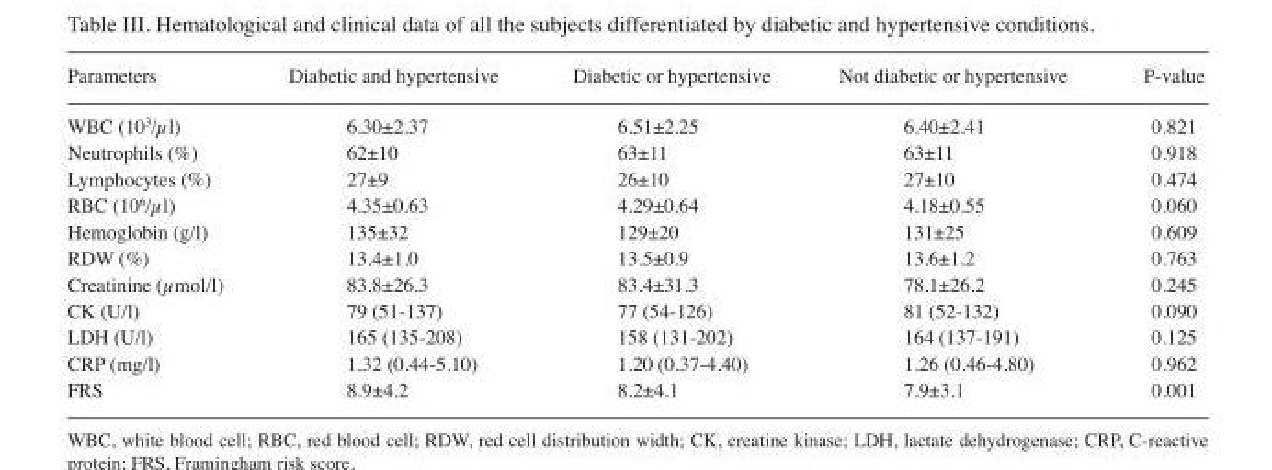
<table><thead><tr><td>Parameters</td><td>Diabetic and hypertensive</td><td>Diabetic or hypertensive</td><td>Not diabetic or hypertensive</td><td>P-value</td></tr></thead><tbody><tr><td>WBC (10<sup>3</sup>/µl)</td><td>6.30±2.37</td><td>6.51±2.25</td><td>6.40±2.41</td><td>0.821</td></tr><tr><td>Neutrophils (%)</td><td>62±10</td><td>63±11</td><td>63±11</td><td>0.918</td></tr><tr><td>Lymphocytes (%)</td><td>27±9</td><td>26±10</td><td>27±10</td><td>0.474</td></tr><tr><td>RBC (10<sup>6</sup>/µl)</td><td>4.35±0.63</td><td>4.29±0.64</td><td>4.18±0.55</td><td>0.060</td></tr><tr><td>Hemoglobin (g/l)</td><td>135±32</td><td>129±20</td><td>131±25</td><td>0.609</td></tr><tr><td>RDW (%)</td><td>13.4±1.0</td><td>13.5±0.9</td><td>13.6±1.2</td><td>0.763</td></tr><tr><td>Creatinine (µmol/l)</td><td>83.8±26.3</td><td>83.4±31.3</td><td>78.1±26.2</td><td>0.245</td></tr><tr><td>CK (U/l)</td><td>79 (51-137)</td><td>77 (54-126)</td><td>81 (52-132)</td><td>0.090</td></tr><tr><td>LDH (U/l)</td><td>165 (135-208)</td><td>158 (131-202)</td><td>164 (137-191)</td><td>0.125</td></tr><tr><td>CRP (mg/l)</td><td>1.32 (0.44-5.10)</td><td>1.20 (0.37-4.40)</td><td>1.26 (0.46-4.80)</td><td>0.962</td></tr><tr><td>FRS</td><td>8.9±4.2</td><td>8.2±4.1</td><td>7.9±3.1</td><td>0.001</td></tr></tbody></table>